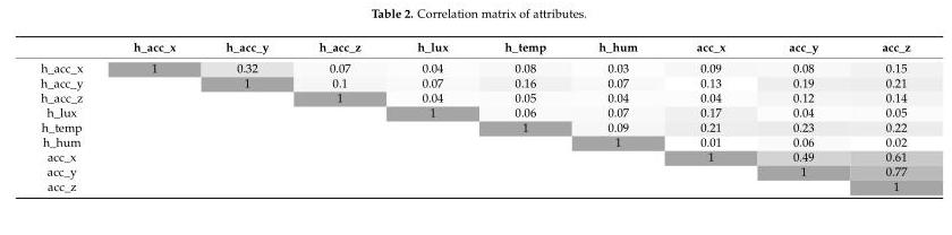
<table><thead><tr><td></td><td>h_acc_x</td><td>h_acc_y</td><td>h_acc_z</td><td>h_lux</td><td>h_temp</td><td>h_hum</td><td>acc_x</td><td>acc_y</td><td>acc_z</td></tr></thead><tbody><tr><td>h_acc_x</td><td>1</td><td>0.32</td><td>0.07</td><td>0.04</td><td>0.08</td><td>0.03</td><td>0.09</td><td>0.08</td><td>0.15</td></tr><tr><td>h_acc_y</td><td></td><td>1</td><td>0.1</td><td>0.07</td><td>0.16</td><td>0.07</td><td>0.13</td><td>0.19</td><td>0.21</td></tr><tr><td>h_acc_z</td><td></td><td></td><td>1</td><td>0.04</td><td>0.05</td><td>0.04</td><td>0.04</td><td>0.12</td><td>0.14</td></tr><tr><td>h_lux</td><td></td><td></td><td></td><td>1</td><td>0.06</td><td>0.07</td><td>0.17</td><td>0.04</td><td>0.05</td></tr><tr><td>h_temp</td><td></td><td></td><td></td><td></td><td>1</td><td>0.09</td><td>0.21</td><td>0.23</td><td>0.22</td></tr><tr><td>h_hum</td><td></td><td></td><td></td><td></td><td></td><td>1</td><td>0.01</td><td>0.06</td><td>0.02</td></tr><tr><td>acc_x</td><td></td><td></td><td></td><td></td><td></td><td></td><td>1</td><td>0.49</td><td>0.61</td></tr><tr><td>acc_y</td><td></td><td></td><td></td><td></td><td></td><td></td><td></td><td>1</td><td>0.77</td></tr><tr><td>acc_z</td><td></td><td></td><td></td><td></td><td></td><td></td><td></td><td></td><td>1</td></tr></tbody></table>